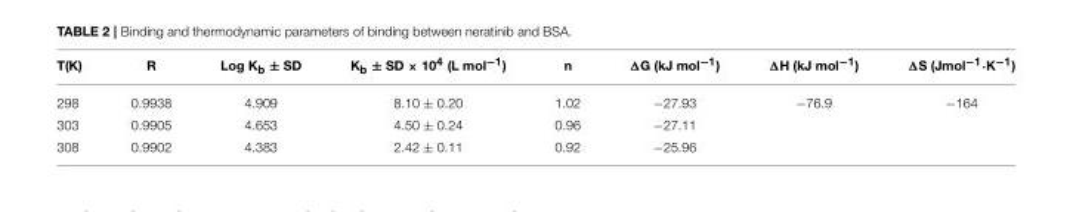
<table><thead><tr><td>T(K)</td><td>R</td><td>Log K<sub>b</sub> ± SD</td><td>K<sub>b</sub> ± SD × 10<sup>4</sup> (L mol<sup>−1</sup>)</td><td>n</td><td>ΔG (kJ mol<sup>−1</sup>)</td><td>ΔH (kJ mol<sup>−1</sup>)</td><td>ΔS (Jmol<sup>−1</sup>·K<sup>−1</sup>)</td></tr></thead><tbody><tr><td>298</td><td>0.9938</td><td>4.909</td><td>8.10 ± 0.20</td><td>1.02</td><td>−27.93</td><td>−76.9</td><td>−164</td></tr><tr><td>303</td><td>0.9905</td><td>4.653</td><td>4.50 ± 0.24</td><td>0.96</td><td>−27.11</td><td></td><td></td></tr><tr><td>308</td><td>0.9902</td><td>4.383</td><td>2.42 ± 0.11</td><td>0.92</td><td>−25.96</td><td></td><td></td></tr></tbody></table>